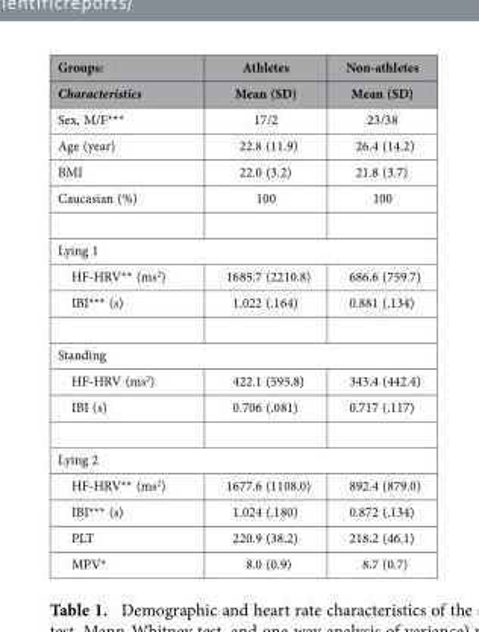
<table><thead><tr><td rowspan="2">Groups: Characteristics</td><td rowspan="2">Athletes Mean (SD)</td><td rowspan="2">Non-athletes Mean (SD)</td></tr><tr></tr></thead><tbody><tr><td>Sex, M/F***</td><td>17/2</td><td>23/38</td></tr><tr><td>Age (year)</td><td>22.8 (11.9)</td><td>26.4 (14.2)</td></tr><tr><td>BMI</td><td>22.0 (3.2)</td><td>21.8 (3.7)</td></tr><tr><td>Caucasian (%)</td><td>100</td><td>100</td></tr><tr><td colspan="3">Lying 1</td></tr><tr><td>HF-HRV** (ms<sup>2</sup>)</td><td>1685.7 (2210.8)</td><td>686.6 (759.7)</td></tr><tr><td>IBI*** (s)</td><td>1.022 (.164)</td><td>0.881 (.134)</td></tr><tr><td colspan="3">Standing</td></tr><tr><td>HF-HRV (ms<sup>2</sup>)</td><td>422.1 (595.8)</td><td>343.4 (442.4)</td></tr><tr><td>IBI (s)</td><td>0.706 (.081)</td><td>0.717 (.117)</td></tr><tr><td colspan="3">Lying 2</td></tr><tr><td>HF-HRV** (ms<sup>2</sup>)</td><td>1677.6 (1108.0)</td><td>892.4 (879.0)</td></tr><tr><td>IBI*** (s)</td><td>1.024 (.180)</td><td>0.872 (.134)</td></tr><tr><td>PLT</td><td>220.9 (38.2)</td><td>218.2 (46.1)</td></tr><tr><td>MPV*</td><td>8.0 (0.9)</td><td>8.7 (0.7)</td></tr></tbody></table>